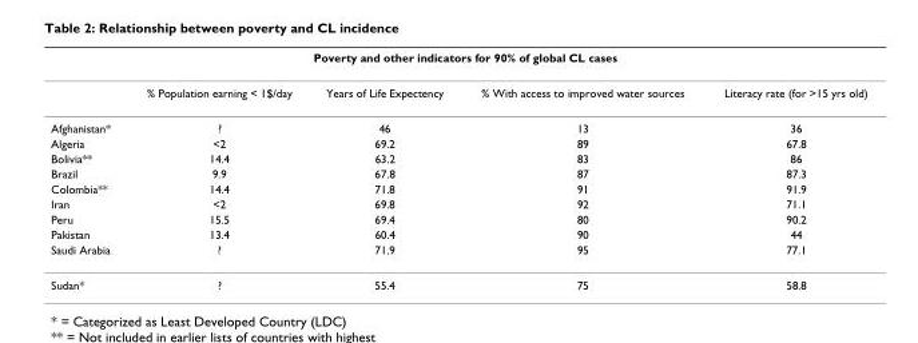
<table><thead><tr><td colspan="5">Poverty and other indicators for 90% of global CL cases</td></tr><tr><td></td><td>% Population earning &lt; 1$/day</td><td>Years of Life Expectency</td><td>% With access to improved water sources</td><td>Literacy rate (for &gt;15 yrs old)</td></tr></thead><tbody><tr><td>Afghanistan*</td><td>?</td><td>46</td><td>13</td><td>36</td></tr><tr><td>Algeria</td><td>&lt;2</td><td>69.2</td><td>89</td><td>67.8</td></tr><tr><td>Bolivia**</td><td>14.4</td><td>63.2</td><td>83</td><td>86</td></tr><tr><td>Brazil</td><td>9.9</td><td>67.8</td><td>87</td><td>87.3</td></tr><tr><td>Colombia**</td><td>14.4</td><td>71.8</td><td>91</td><td>91.9</td></tr><tr><td>Iran</td><td>&lt;2</td><td>69.8</td><td>92</td><td>71.1</td></tr><tr><td>Peru</td><td>15.5</td><td>69.4</td><td>80</td><td>90.2</td></tr><tr><td>Pakistan</td><td>13.4</td><td>60.4</td><td>90</td><td>44</td></tr><tr><td>Saudi Arabia</td><td>?</td><td>71.9</td><td>95</td><td>77.1</td></tr><tr><td>Sudan*</td><td>?</td><td>55.4</td><td>75</td><td>58.8</td></tr></tbody></table>